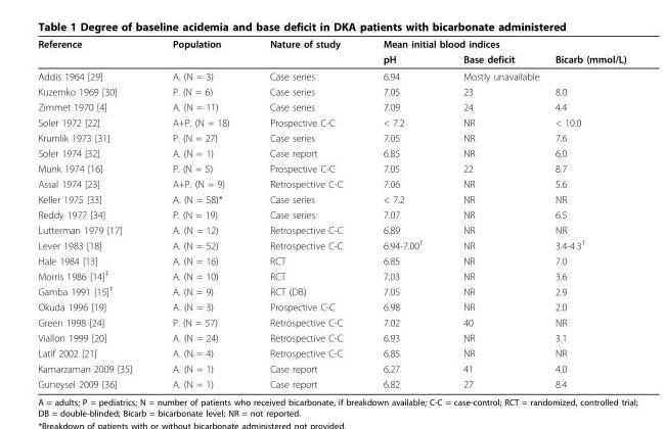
<table><thead><tr><td rowspan="2">Reference</td><td rowspan="2">Population</td><td rowspan="2">Nature of study</td><td colspan="3">Mean initial blood indices</td></tr><tr><td>pH</td><td>Base deficit</td><td>Bicarb (mmol/L)</td></tr></thead><tbody><tr><td>Addis 1964 [29]</td><td>A. (N = 3)</td><td>Case series</td><td>6.94</td><td colspan="2">Mostly unavailable</td></tr><tr><td>Kuzemko 1969 [30]</td><td>P. (N = 6)</td><td>Case series</td><td>7.05</td><td>23</td><td>8.0</td></tr><tr><td>Zimmet 1970 [4]</td><td>A. (N = 11)</td><td>Case series</td><td>7.09</td><td>24</td><td>4.4</td></tr><tr><td>Soler 1972 [22]</td><td>A+P. (N = 18)</td><td>Prospective C-C</td><td>&lt; 7.2</td><td>NR</td><td>&lt; 10.0</td></tr><tr><td>Krumlik 1973 [31]</td><td>P. (N = 27)</td><td>Case series</td><td>7.05</td><td>NR</td><td>7.6</td></tr><tr><td>Soler 1974 [32]</td><td>A. (N = 1)</td><td>Case report</td><td>6.85</td><td>NR</td><td>6.0</td></tr><tr><td>Munk 1974 [16]</td><td>P. (N = 5)</td><td>Prospective C-C</td><td>7.05</td><td>22</td><td>8.7</td></tr><tr><td>Assal 1974 [23]</td><td>A+P. (N = 9)</td><td>Retrospective C-C</td><td>7.06</td><td>NR</td><td>5.6</td></tr><tr><td>Keller 1975 [33]</td><td>A. (N = 58)*</td><td>Case series</td><td>&lt; 7.2</td><td>NR</td><td>NR</td></tr><tr><td>Reddy 1977 [34]</td><td>P. (N = 19)</td><td>Case series</td><td>7.07</td><td>NR</td><td>6.5</td></tr><tr><td>Lutterman 1979 [17]</td><td>A. (N = 12)</td><td>Retrospective C-C</td><td>6.89</td><td>NR</td><td>NR</td></tr><tr><td>Lever 1983 [18]</td><td>A. (N = 52)</td><td>Retrospective C-C</td><td>6.94-7.00<sup>†</sup></td><td>NR</td><td>3.4-4.3<sup>†</sup></td></tr><tr><td>Hale 1984 [13]</td><td>A. (N = 16)</td><td>RCT</td><td>6.85</td><td>NR</td><td>7.0</td></tr><tr><td>Morris 1986 [14]<sup>‡</sup></td><td>A. (N = 10)</td><td>RCT</td><td>7.03</td><td>NR</td><td>3.6</td></tr><tr><td>Gamba 1991 [15]<sup>‡</sup></td><td>A. (N = 9)</td><td>RCT (DB)</td><td>7.05</td><td>NR</td><td>2.9</td></tr><tr><td>Okuda 1996 [19]</td><td>A. (N = 3)</td><td>Prospective C-C</td><td>6.98</td><td>NR</td><td>2.0</td></tr><tr><td>Green 1998 [24]</td><td>P. (N = 57)</td><td>Retrospective C-C</td><td>7.02</td><td>40</td><td>NR</td></tr><tr><td>Viallon 1999 [20]</td><td>A. (N = 24)</td><td>Retrospective C-C</td><td>6.93</td><td>NR</td><td>3.1</td></tr><tr><td>Latif 2002 [21]</td><td>A. (N = 4)</td><td>Retrospective C-C</td><td>6.85</td><td>NR</td><td>NR</td></tr><tr><td>Kamarzaman 2009 [35]</td><td>A. (N = 1)</td><td>Case report</td><td>6.27</td><td>41</td><td>4.0</td></tr><tr><td>Guneysel 2009 [36]</td><td>A. (N = 1)</td><td>Case report</td><td>6.82</td><td>27</td><td>8.4</td></tr></tbody></table>